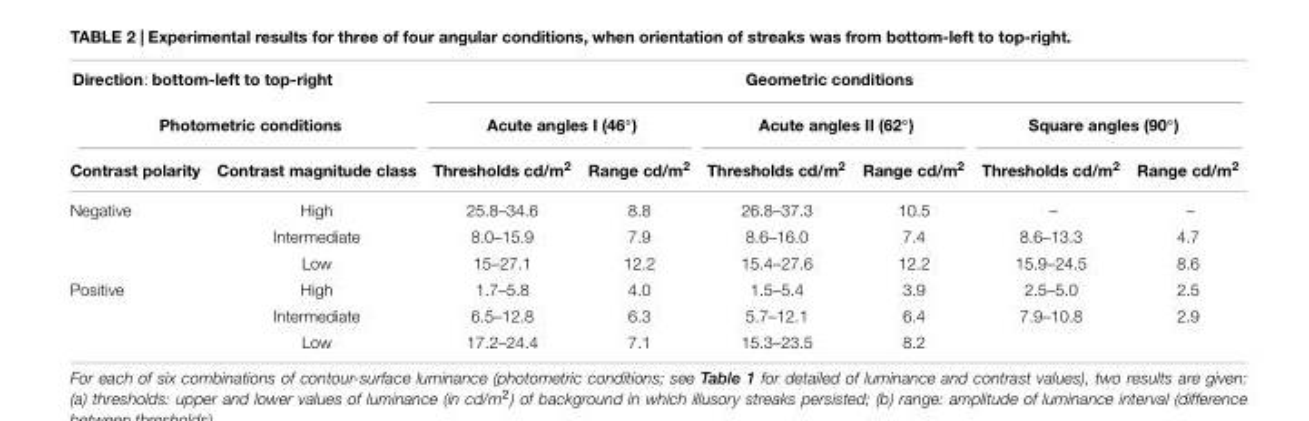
<table><thead><tr><td rowspan="2" colspan="2">Direction: bottom-left to top-right Photometric conditions</td><td colspan="6">Geometric conditions</td></tr><tr><td colspan="2">Acute angles I (46◦)</td><td colspan="2">Acute angles II (62◦)</td><td colspan="2">Square angles (90◦)</td></tr><tr><td>Contrast polarity</td><td>Contrast magnitude class</td><td>Thresholds cd/m<sup>2</sup></td><td>Range cd/m<sup>2</sup></td><td>Thresholds cd/m<sup>2</sup></td><td>Range cd/m<sup>2</sup></td><td>Thresholds cd/m<sup>2</sup></td><td>Range cd/m<sup>2</sup></td></tr></thead><tbody><tr><td rowspan="3">Negative</td><td>High</td><td>25.8–34.6</td><td>8.8</td><td>26.8–37.3</td><td>10.5</td><td>–</td><td>–</td></tr><tr><td>Intermediate</td><td>8.0–15.9</td><td>7.9</td><td>8.6–16.0</td><td>7.4</td><td>8.6–13.3</td><td>4.7</td></tr><tr><td>Low</td><td>15–27.1</td><td>12.2</td><td>15.4–27.6</td><td>12.2</td><td>15.9–24.5</td><td>8.6</td></tr><tr><td rowspan="3">Positive</td><td>High</td><td>1.7–5.8</td><td>4.0</td><td>1.5–5.4</td><td>3.9</td><td>2.5–5.0</td><td>2.5</td></tr><tr><td>Intermediate</td><td>6.5–12.8</td><td>6.3</td><td>5.7–12.1</td><td>6.4</td><td>7.9–10.8</td><td>2.9</td></tr><tr><td>Low</td><td>17.2–24.4</td><td>7.1</td><td>15.3–23.5</td><td>8.2</td><td></td><td></td></tr></tbody></table>